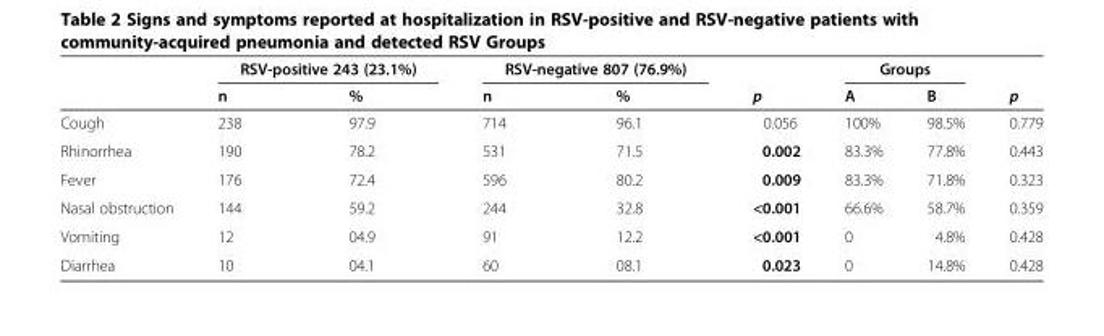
<table><thead><tr><td rowspan="2"></td><td colspan="2">RSV-positive 243 (23.1%)</td><td colspan="2">RSV-negative 807 (76.9%)</td><td rowspan="2">p</td><td colspan="2">Groups</td><td rowspan="2">p</td></tr><tr><td>n</td><td>%</td><td>n</td><td>%</td><td>A</td><td>B</td></tr></thead><tbody><tr><td>Cough</td><td>238</td><td>97.9</td><td>714</td><td>96.1</td><td>0.056</td><td>100%</td><td>98.5%</td><td>0.779</td></tr><tr><td>Rhinorrhea</td><td>190</td><td>78.2</td><td>531</td><td>71.5</td><td>0.002</td><td>83.3%</td><td>77.8%</td><td>0.443</td></tr><tr><td>Fever</td><td>176</td><td>72.4</td><td>596</td><td>80.2</td><td>0.009</td><td>83.3%</td><td>71.8%</td><td>0.323</td></tr><tr><td>Nasal obstruction</td><td>144</td><td>59.2</td><td>244</td><td>32.8</td><td>&lt;0.001</td><td>66.6%</td><td>58.7%</td><td>0.359</td></tr><tr><td>Vomiting</td><td>12</td><td>04.9</td><td>91</td><td>12.2</td><td>&lt;0.001</td><td>0</td><td>4.8%</td><td>0.428</td></tr><tr><td>Diarrhea</td><td>10</td><td>04.1</td><td>60</td><td>08.1</td><td>0.023</td><td>0</td><td>14.8%</td><td>0.428</td></tr></tbody></table>